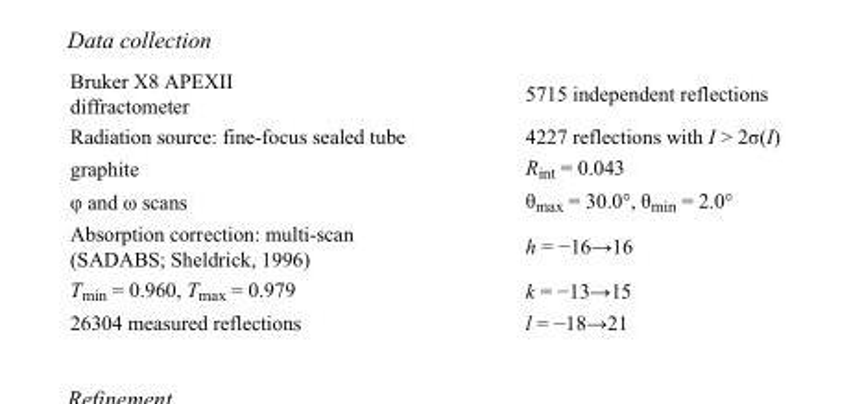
<table><tbody><tr><td>Bruker X8 APEXII diffractometer</td><td>5715 independent reflections</td></tr><tr><td>Radiation source: fine-focus sealed tube</td><td>4227 reflections with I &gt; 2σ(I)</td></tr><tr><td>graphite</td><td>R<sub>int</sub> = 0.043</td></tr><tr><td>φ and ω scans</td><td>θ<sub>max</sub> = 30.0°, θ<sub>min</sub> = 2.0°</td></tr><tr><td>Absorption correction: multi-scan (SADABS; Sheldrick, 1996)</td><td>h = −16→16</td></tr><tr><td>T<sub>min</sub> = 0.960, T<sub>max</sub> = 0.979</td><td>k = −13→15</td></tr><tr><td>26304 measured reflections</td><td>l = −18→21</td></tr></tbody></table>